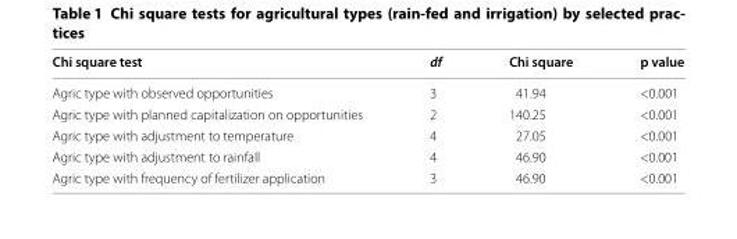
<table><thead><tr><td>Chi square test</td><td>df</td><td>Chi square</td><td>p value</td></tr></thead><tbody><tr><td>Agric type with observed opportunities</td><td>3</td><td>41.94</td><td>&lt;0.001</td></tr><tr><td>Agric type with planned capitalization on opportunities</td><td>2</td><td>140.25</td><td>&lt;0.001</td></tr><tr><td>Agric type with adjustment to temperature</td><td>4</td><td>27.05</td><td>&lt;0.001</td></tr><tr><td>Agric type with adjustment to rainfall</td><td>4</td><td>46.90</td><td>&lt;0.001</td></tr><tr><td>Agric type with frequency of fertilizer application</td><td>3</td><td>46.90</td><td>&lt;0.001</td></tr></tbody></table>